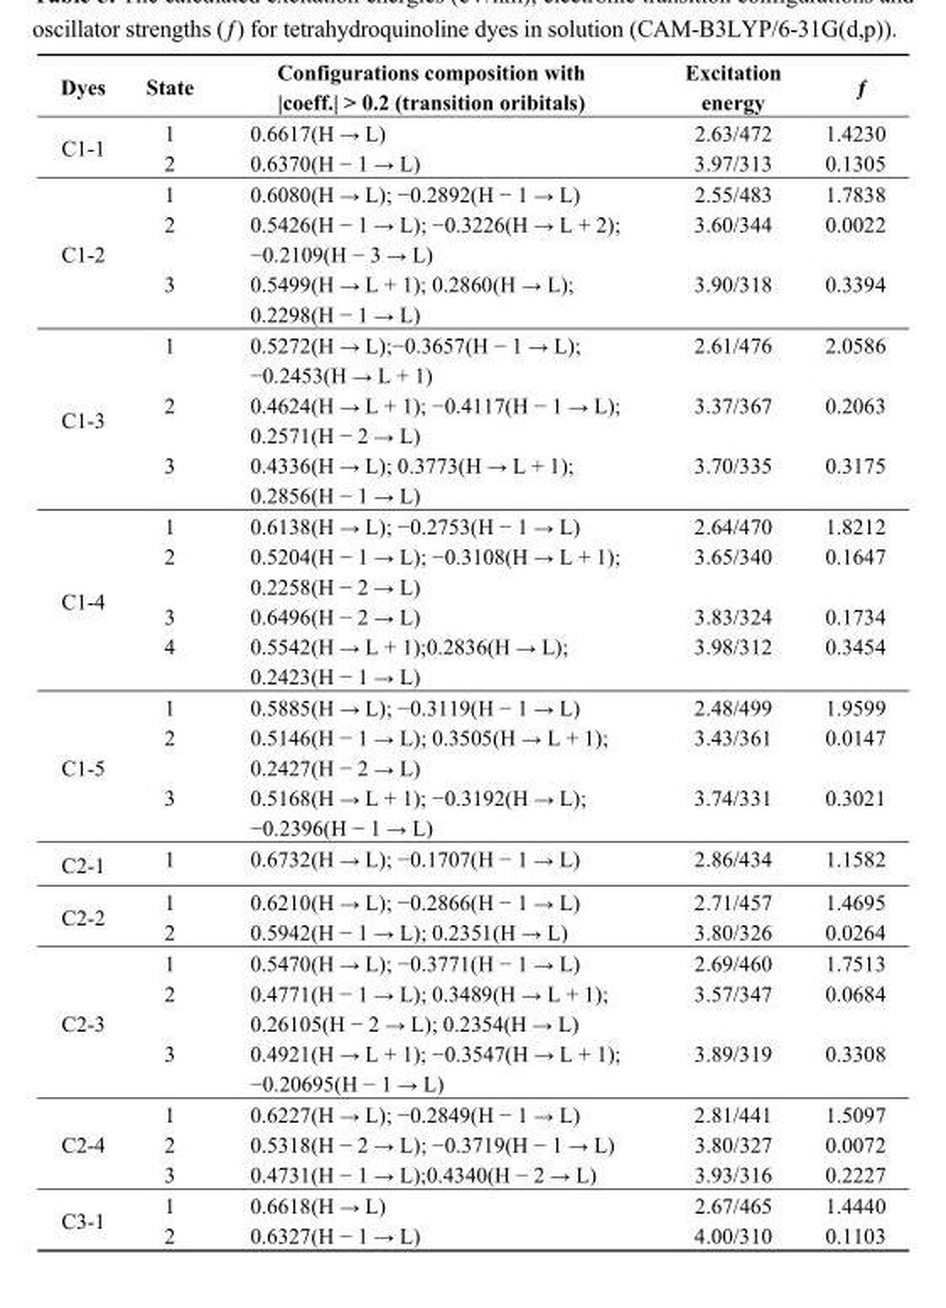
<table><thead><tr><td>Dyes</td><td>State</td><td>Configurations composition with |coeff.| &gt; 0.2 (transition oribitals)</td><td>Excitation energy</td><td>ƒ</td></tr></thead><tbody><tr><td rowspan="2">C1-1</td><td>1</td><td>0.6617(H → L)</td><td>2.63/472</td><td>1.4230</td></tr><tr><td>2</td><td>0.6370(H − 1 → L)</td><td>3.97/313</td><td>0.1305</td></tr><tr><td rowspan="3">C1-2</td><td>1</td><td>0.6080(H → L); −0.2892(H − 1 → L)</td><td>2.55/483</td><td>1.7838</td></tr><tr><td>2</td><td>0.5426(H − 1 → L); −0.3226(H → L + 2); −0.2109(H − 3 → L)</td><td>3.60/344</td><td>0.0022</td></tr><tr><td>3</td><td>0.5499(H → L + 1); 0.2860(H → L); 0.2298(H − 1 → L)</td><td>3.90/318</td><td>0.3394</td></tr><tr><td rowspan="3">C1-3</td><td>1</td><td>0.5272(H → L);−0.3657(H − 1 → L); −0.2453(H → L + 1)</td><td>2.61/476</td><td>2.0586</td></tr><tr><td>2</td><td>0.4624(H → L + 1); −0.4117(H − 1 → L); 0.2571(H − 2 → L)</td><td>3.37/367</td><td>0.2063</td></tr><tr><td>3</td><td>0.4336(H → L); 0.3773(H → L + 1); 0.2856(H − 1 → L)</td><td>3.70/335</td><td>0.3175</td></tr><tr><td rowspan="4">C1-4</td><td>1</td><td>0.6138(H → L); −0.2753(H − 1 → L)</td><td>2.64/470</td><td>1.8212</td></tr><tr><td>2</td><td>0.5204(H − 1 → L); −0.3108(H → L + 1); 0.2258(H − 2 → L)</td><td>3.65/340</td><td>0.1647</td></tr><tr><td>3</td><td>0.6496(H − 2 → L)</td><td>3.83/324</td><td>0.1734</td></tr><tr><td>4</td><td>0.5542(H → L + 1);0.2836(H → L); 0.2423(H − 1 → L)</td><td>3.98/312</td><td>0.3454</td></tr><tr><td rowspan="3">C1-5</td><td>1</td><td>0.5885(H → L); −0.3119(H − 1 → L)</td><td>2.48/499</td><td>1.9599</td></tr><tr><td>2</td><td>0.5146(H − 1 → L); 0.3505(H → L + 1); 0.2427(H − 2 → L)</td><td>3.43/361</td><td>0.0147</td></tr><tr><td>3</td><td>0.5168(H → L + 1); −0.3192(H → L); −0.2396(H − 1 → L)</td><td>3.74/331</td><td>0.3021</td></tr><tr><td>C2-1</td><td>1</td><td>0.6732(H → L); −0.1707(H − 1 → L)</td><td>2.86/434</td><td>1.1582</td></tr><tr><td rowspan="2">C2-2</td><td>1</td><td>0.6210(H → L); −0.2866(H − 1 → L)</td><td>2.71/457</td><td>1.4695</td></tr><tr><td>2</td><td>0.5942(H − 1 → L); 0.2351(H → L)</td><td>3.80/326</td><td>0.0264</td></tr><tr><td rowspan="3">C2-3</td><td>1</td><td>0.5470(H → L); −0.3771(H − 1 → L)</td><td>2.69/460</td><td>1.7513</td></tr><tr><td>2</td><td>0.4771(H − 1 → L); 0.3489(H → L + 1); 0.26105(H − 2 → L); 0.2354(H → L)</td><td>3.57/347</td><td>0.0684</td></tr><tr><td>3</td><td>0.4921(H → L + 1); −0.3547(H → L + 1); −0.20695(H − 1 → L)</td><td>3.89/319</td><td>0.3308</td></tr><tr><td rowspan="3">C2-4</td><td>1</td><td>0.6227(H → L); −0.2849(H − 1 → L)</td><td>2.81/441</td><td>1.5097</td></tr><tr><td>2</td><td>0.5318(H − 2 → L); −0.3719(H − 1 → L)</td><td>3.80/327</td><td>0.0072</td></tr><tr><td>3</td><td>0.4731(H − 1 → L);0.4340(H − 2 → L)</td><td>3.93/316</td><td>0.2227</td></tr><tr><td rowspan="2">C3-1</td><td>1</td><td>0.6618(H → L)</td><td>2.67/465</td><td>1.4440</td></tr><tr><td>2</td><td>0.6327(H − 1 → L)</td><td>4.00/310</td><td>0.1103</td></tr></tbody></table>